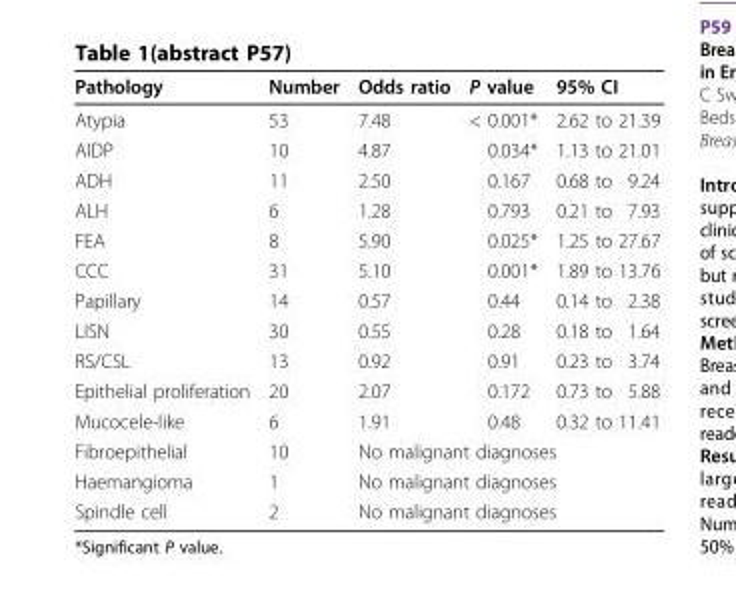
<table><thead><tr><td>Pathology</td><td>Number</td><td>Odds ratio</td><td>P value</td><td>95% CI</td></tr></thead><tbody><tr><td>Atypia</td><td>53</td><td>7.48</td><td>&lt; 0.001*</td><td>2.62 to 21.39</td></tr><tr><td>AIDP</td><td>10</td><td>4.87</td><td>0.034*</td><td>1.13 to 21.01</td></tr><tr><td>ADH</td><td>11</td><td>2.50</td><td>0.167</td><td>0.68 to 9.24</td></tr><tr><td>ALH</td><td>6</td><td>1.28</td><td>0.793</td><td>0.21 to 7.93</td></tr><tr><td>FEA</td><td>8</td><td>5.90</td><td>0.025*</td><td>1.25 to 27.67</td></tr><tr><td>CCC</td><td>31</td><td>5.10</td><td>0.001*</td><td>1.89 to 13.76</td></tr><tr><td>Papillary</td><td>14</td><td>0.57</td><td>0.44</td><td>0.14 to 2.38</td></tr><tr><td>LISN</td><td>30</td><td>0.55</td><td>0.28</td><td>0.18 to 1.64</td></tr><tr><td>RS/CSL</td><td>13</td><td>0.92</td><td>0.91</td><td>0.23 to 3.74</td></tr><tr><td>Epithelial proliferation</td><td>20</td><td>2.07</td><td>0.172</td><td>0.73 to 5.88</td></tr><tr><td>Mucocele-like</td><td>6</td><td>1.91</td><td>0.48</td><td>0.32 to 11.41</td></tr><tr><td>Fibroepithelial</td><td>10</td><td colspan="3">No malignant diagnoses</td></tr><tr><td>Haemangioma</td><td>1</td><td colspan="3">No malignant diagnoses</td></tr><tr><td>Spindle cell</td><td>2</td><td colspan="3">No malignant diagnoses</td></tr></tbody></table>